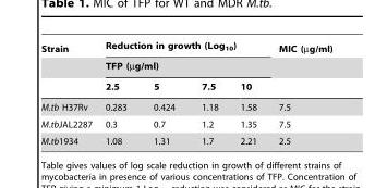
<table><thead><tr><td rowspan="3">Strain</td><td rowspan="2" colspan="4">Reduction in growth (Log<sub>10</sub>) TFP (µg/ml)</td><td rowspan="3">MIC (µg/ml)</td></tr><tr></tr><tr><td>2.5</td><td>5</td><td>7.5</td><td>10</td></tr></thead><tbody><tr><td>M.tb H37Rv</td><td>0.283</td><td>0.424</td><td>1.18</td><td>1.58</td><td>7.5</td></tr><tr><td>M.tbJAL2287</td><td>0.3</td><td>0.7</td><td>1.2</td><td>1.35</td><td>7.5</td></tr><tr><td>M.tb1934</td><td>1.08</td><td>1.31</td><td>1.7</td><td>2.21</td><td>2.5</td></tr></tbody></table>